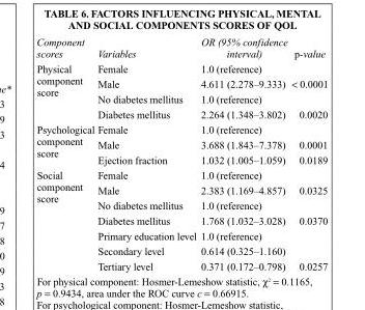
<table><thead><tr><td>Component scores</td><td>Variables</td><td>OR (95% confidence interval)</td><td>p-value</td></tr></thead><tbody><tr><td rowspan="4">Physical component score</td><td>Female</td><td>1.0 (reference)</td><td></td></tr><tr><td>Male</td><td>4.611 (2.278–9.333)</td><td>&lt; 0.0001</td></tr><tr><td>No diabetes mellitus</td><td>1.0 (reference)</td><td></td></tr><tr><td>Diabetes mellitus</td><td>2.264 (1.348–3.802)</td><td>0.0020</td></tr><tr><td rowspan="3">Psychological component score</td><td>Female</td><td>1.0 (reference)</td><td></td></tr><tr><td>Male</td><td>3.688 (1.843–7.378)</td><td>0.0001</td></tr><tr><td>Ejection fraction</td><td>1.032 (1.005–1.059)</td><td>0.0189</td></tr><tr><td rowspan="7">Social component score</td><td>Female</td><td>1.0 (reference)</td><td></td></tr><tr><td>Male</td><td>2.383 (1.169–4.857)</td><td>0.0325</td></tr><tr><td>No diabetes mellitus</td><td>1.0 (reference)</td><td></td></tr><tr><td>Diabetes mellitus</td><td>1.768 (1.032–3.028)</td><td>0.0370</td></tr><tr><td>Primary education level</td><td>1.0 (reference)</td><td></td></tr><tr><td>Secondary level</td><td>0.614 (0.325–1.160)</td><td></td></tr><tr><td>Tertiary level</td><td>0.371 (0.172–0.798)</td><td>0.0257</td></tr></tbody></table>